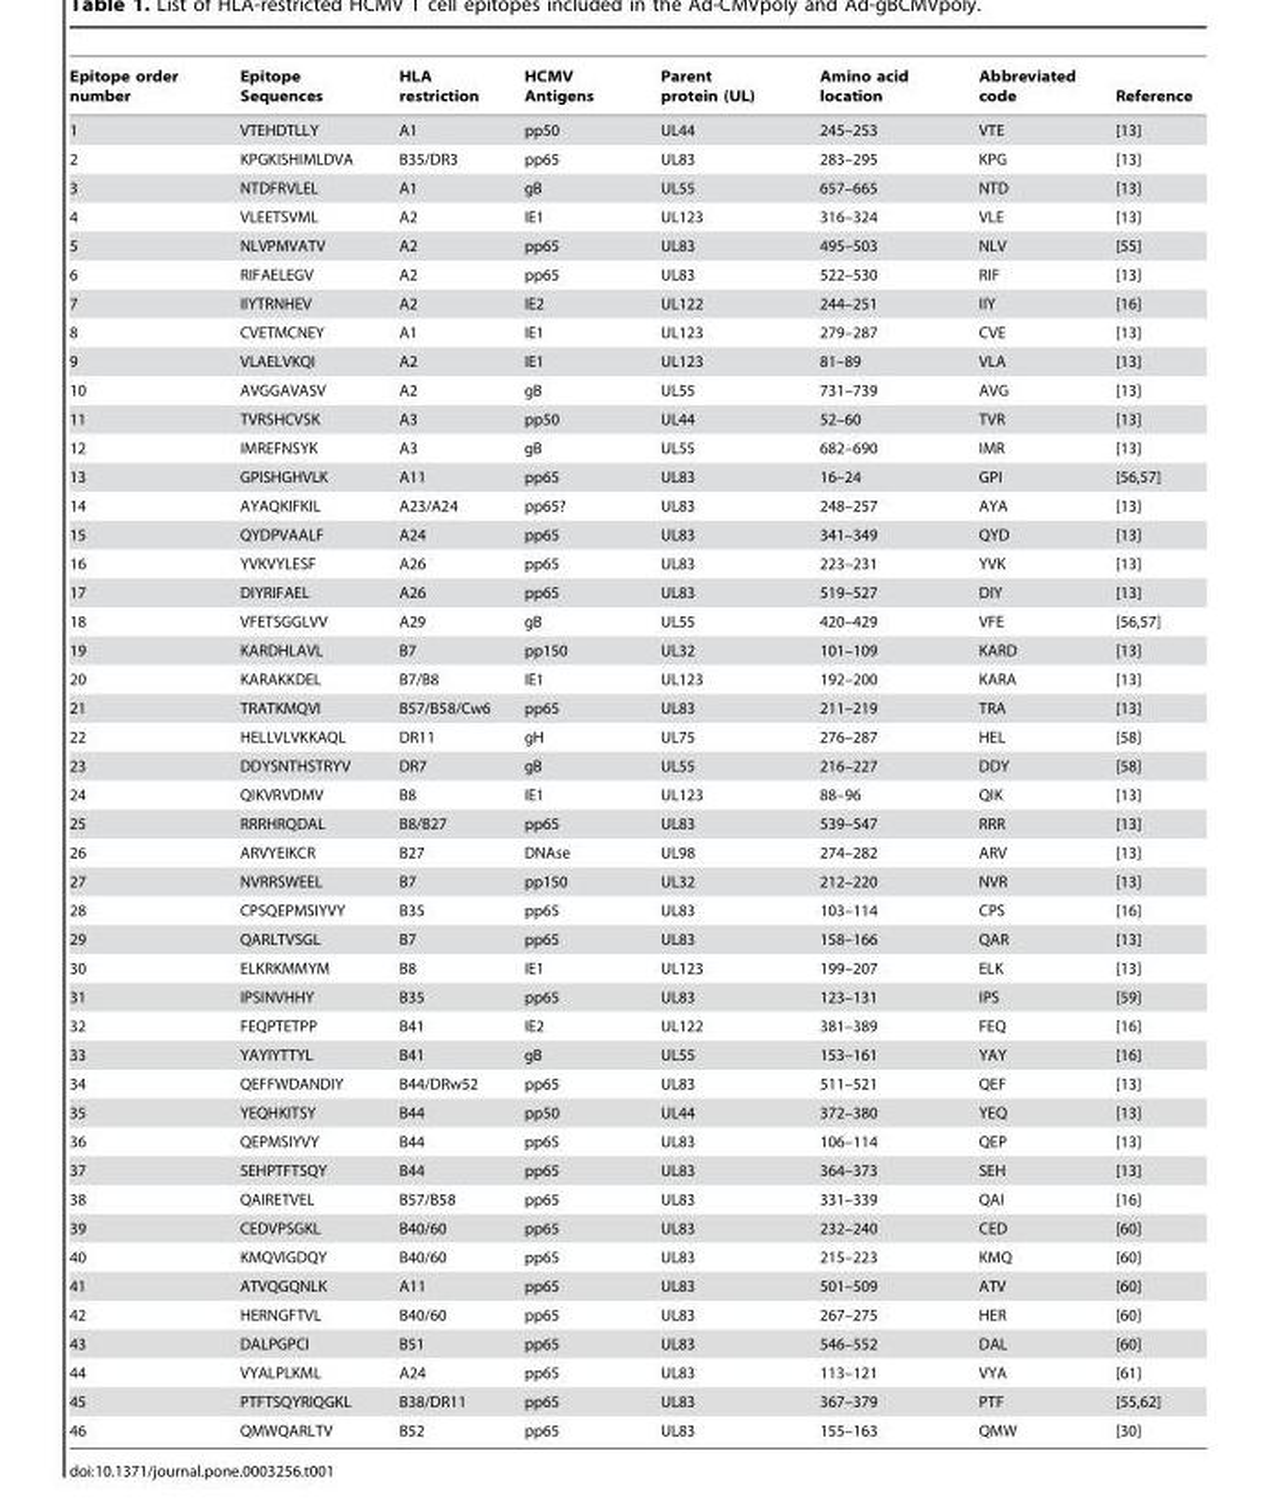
<table><thead><tr><td>Epitope order number</td><td>Epitope Sequences</td><td>HLA restriction</td><td>HCMV Antigens</td><td>Parent protein (UL)</td><td>Amino acid location</td><td>Abbreviated code</td><td>Reference</td></tr></thead><tbody><tr><td>1</td><td>VTEHDTLLY</td><td>A1</td><td>pp50</td><td>UL44</td><td>245–253</td><td>VTE</td><td>[13]</td></tr><tr><td>2</td><td>KPGKISHIMLDVA</td><td>B35/DR3</td><td>pp65</td><td>UL83</td><td>283–295</td><td>KPG</td><td>[13]</td></tr><tr><td>3</td><td>NTDFRVLEL</td><td>A1</td><td>gB</td><td>UL55</td><td>657–665</td><td>NTD</td><td>[13]</td></tr><tr><td>4</td><td>VLEETSVML</td><td>A2</td><td>IE1</td><td>UL123</td><td>316–324</td><td>VLE</td><td>[13]</td></tr><tr><td>5</td><td>NLVPMVATV</td><td>A2</td><td>pp65</td><td>UL83</td><td>495–503</td><td>NLV</td><td>[55]</td></tr><tr><td>6</td><td>RIFAELEGV</td><td>A2</td><td>pp65</td><td>UL83</td><td>522–530</td><td>RIF</td><td>[13]</td></tr><tr><td>7</td><td>IIYTRNHEV</td><td>A2</td><td>IE2</td><td>UL122</td><td>244–251</td><td>IIY</td><td>[16]</td></tr><tr><td>8</td><td>CVETMCNEY</td><td>A1</td><td>IE1</td><td>UL123</td><td>279–287</td><td>CVE</td><td>[13]</td></tr><tr><td>9</td><td>VLAELVKQI</td><td>A2</td><td>IE1</td><td>UL123</td><td>81–89</td><td>VLA</td><td>[13]</td></tr><tr><td>10</td><td>AVGGAVASV</td><td>A2</td><td>gB</td><td>UL55</td><td>731–739</td><td>AVG</td><td>[13]</td></tr><tr><td>11</td><td>TVRSHCVSK</td><td>A3</td><td>pp50</td><td>UL44</td><td>52–60</td><td>TVR</td><td>[13]</td></tr><tr><td>12</td><td>IMREFNSYK</td><td>A3</td><td>gB</td><td>UL55</td><td>682–690</td><td>IMR</td><td>[13]</td></tr><tr><td>13</td><td>GPISHGHVLK</td><td>A11</td><td>pp65</td><td>UL83</td><td>16–24</td><td>GPI</td><td>[56,57]</td></tr><tr><td>14</td><td>AYAQKIFKIL</td><td>A23/A24</td><td>pp65?</td><td>UL83</td><td>248–257</td><td>AYA</td><td>[13]</td></tr><tr><td>15</td><td>QYDPVAALF</td><td>A24</td><td>pp65</td><td>UL83</td><td>341–349</td><td>QYD</td><td>[13]</td></tr><tr><td>16</td><td>YVKVYLESF</td><td>A26</td><td>pp65</td><td>UL83</td><td>223–231</td><td>YVK</td><td>[13]</td></tr><tr><td>17</td><td>DIYRIFAEL</td><td>A26</td><td>pp65</td><td>UL83</td><td>519–527</td><td>DIY</td><td>[13]</td></tr><tr><td>18</td><td>VFETSGGLVV</td><td>A29</td><td>gB</td><td>UL55</td><td>420–429</td><td>VFE</td><td>[56,57]</td></tr><tr><td>19</td><td>KARDHLAVL</td><td>B7</td><td>pp150</td><td>UL32</td><td>101–109</td><td>KARD</td><td>[13]</td></tr><tr><td>20</td><td>KARAKKDEL</td><td>B7/B8</td><td>IE1</td><td>UL123</td><td>192–200</td><td>KARA</td><td>[13]</td></tr><tr><td>21</td><td>TRATKMQVI</td><td>B57/B58/Cw6</td><td>pp65</td><td>UL83</td><td>211–219</td><td>TRA</td><td>[13]</td></tr><tr><td>22</td><td>HELLVLVKKAQL</td><td>DR11</td><td>gH</td><td>UL75</td><td>276–287</td><td>HEL</td><td>[58]</td></tr><tr><td>23</td><td>DDYSNTHSTRYV</td><td>DR7</td><td>gB</td><td>UL55</td><td>216–227</td><td>DDY</td><td>[58]</td></tr><tr><td>24</td><td>QIKVRVDMV</td><td>B8</td><td>IE1</td><td>UL123</td><td>88–96</td><td>QIK</td><td>[13]</td></tr><tr><td>25</td><td>RRRHRQDAL</td><td>B8/B27</td><td>pp65</td><td>UL83</td><td>539–547</td><td>RRR</td><td>[13]</td></tr><tr><td>26</td><td>ARVYEIKCR</td><td>B27</td><td>DNAse</td><td>UL98</td><td>274–282</td><td>ARV</td><td>[13]</td></tr><tr><td>27</td><td>NVRRSWEEL</td><td>B7</td><td>pp150</td><td>UL32</td><td>212–220</td><td>NVR</td><td>[13]</td></tr><tr><td>28</td><td>CPSQEPMSIYVY</td><td>B35</td><td>pp65</td><td>UL83</td><td>103–114</td><td>CPS</td><td>[16]</td></tr><tr><td>29</td><td>QARLTVSGL</td><td>B7</td><td>pp65</td><td>UL83</td><td>158–166</td><td>QAR</td><td>[13]</td></tr><tr><td>30</td><td>ELKRKMMYM</td><td>B8</td><td>IE1</td><td>UL123</td><td>199–207</td><td>ELK</td><td>[13]</td></tr><tr><td>31</td><td>IPSINVHHY</td><td>B35</td><td>pp65</td><td>UL83</td><td>123–131</td><td>IPS</td><td>[59]</td></tr><tr><td>32</td><td>FEQPTETPP</td><td>B41</td><td>IE2</td><td>UL122</td><td>381–389</td><td>FEQ</td><td>[16]</td></tr><tr><td>33</td><td>YAYIYTTYL</td><td>B41</td><td>gB</td><td>UL55</td><td>153–161</td><td>YAY</td><td>[16]</td></tr><tr><td>34</td><td>QEFFWDANDIY</td><td>B44/DRw52</td><td>pp65</td><td>UL83</td><td>511–521</td><td>QEF</td><td>[13]</td></tr><tr><td>35</td><td>YEQHKITSY</td><td>B44</td><td>pp50</td><td>UL44</td><td>372–380</td><td>YEQ</td><td>[13]</td></tr><tr><td>36</td><td>QEPMSIYVY</td><td>B44</td><td>pp65</td><td>UL83</td><td>106–114</td><td>QEP</td><td>[13]</td></tr><tr><td>37</td><td>SEHPTFTSQY</td><td>B44</td><td>pp65</td><td>UL83</td><td>364–373</td><td>SEH</td><td>[13]</td></tr><tr><td>38</td><td>QAIRETVEL</td><td>B57/B58</td><td>pp65</td><td>UL83</td><td>331–339</td><td>QAI</td><td>[16]</td></tr><tr><td>39</td><td>CEDVPSGKL</td><td>B40/60</td><td>pp65</td><td>UL83</td><td>232–240</td><td>CED</td><td>[60]</td></tr><tr><td>40</td><td>KMQVIGDQY</td><td>B40/60</td><td>pp65</td><td>UL83</td><td>215–223</td><td>KMQ</td><td>[60]</td></tr><tr><td>41</td><td>ATVQGQNLK</td><td>A11</td><td>pp65</td><td>UL83</td><td>501–509</td><td>ATV</td><td>[60]</td></tr><tr><td>42</td><td>HERNGFTVL</td><td>B40/60</td><td>pp65</td><td>UL83</td><td>267–275</td><td>HER</td><td>[60]</td></tr><tr><td>43</td><td>DALPGPCI</td><td>B51</td><td>pp65</td><td>UL83</td><td>546–552</td><td>DAL</td><td>[60]</td></tr><tr><td>44</td><td>VYALPLKML</td><td>A24</td><td>pp65</td><td>UL83</td><td>113–121</td><td>VYA</td><td>[61]</td></tr><tr><td>45</td><td>PTFTSQYRIQGKL</td><td>B38/DR11</td><td>pp65</td><td>UL83</td><td>367–379</td><td>PTF</td><td>[55,62]</td></tr><tr><td>46</td><td>QMWQARLTV</td><td>B52</td><td>pp65</td><td>UL83</td><td>155–163</td><td>QMW</td><td>[30]</td></tr></tbody></table>